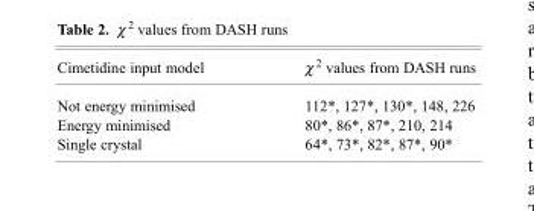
<table><thead><tr><td>Cimetidine input model</td><td>χ <sup>2</sup> values from DASH runs</td></tr></thead><tbody><tr><td>Not energy minimised</td><td>112*, 127*, 130*, 148, 226</td></tr><tr><td>Energy minimised</td><td>80*, 86*, 87*, 210, 214</td></tr><tr><td>Single crystal</td><td>64*, 73*, 82*, 87*, 90*</td></tr></tbody></table>